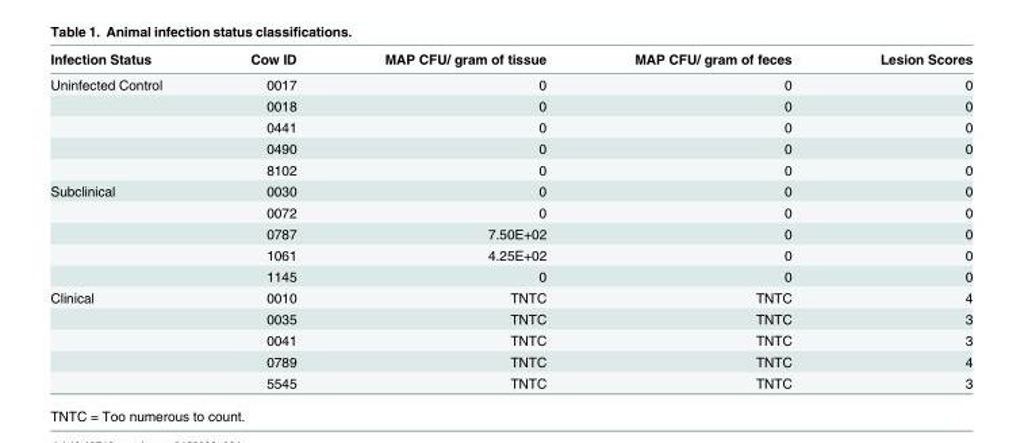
<table><thead><tr><td>Infection Status</td><td>Cow ID</td><td>MAP CFU/ gram of tissue</td><td>MAP CFU/ gram of feces</td><td>Lesion Scores</td></tr></thead><tbody><tr><td rowspan="5">Uninfected Control</td><td>0017</td><td>0</td><td>0</td><td>0</td></tr><tr><td>0018</td><td>0</td><td>0</td><td>0</td></tr><tr><td>0441</td><td>0</td><td>0</td><td>0</td></tr><tr><td>0490</td><td>0</td><td>0</td><td>0</td></tr><tr><td>8102</td><td>0</td><td>0</td><td>0</td></tr><tr><td rowspan="5">Subclinical</td><td>0030</td><td>0</td><td>0</td><td>0</td></tr><tr><td>0072</td><td>0</td><td>0</td><td>0</td></tr><tr><td>0787</td><td>7.50E+02</td><td>0</td><td>0</td></tr><tr><td>1061</td><td>4.25E+02</td><td>0</td><td>0</td></tr><tr><td>1145</td><td>0</td><td>0</td><td>0</td></tr><tr><td rowspan="5">Clinical</td><td>0010</td><td>TNTC</td><td>TNTC</td><td>4</td></tr><tr><td>0035</td><td>TNTC</td><td>TNTC</td><td>3</td></tr><tr><td>0041</td><td>TNTC</td><td>TNTC</td><td>3</td></tr><tr><td>0789</td><td>TNTC</td><td>TNTC</td><td>4</td></tr><tr><td>5545</td><td>TNTC</td><td>TNTC</td><td>3</td></tr></tbody></table>